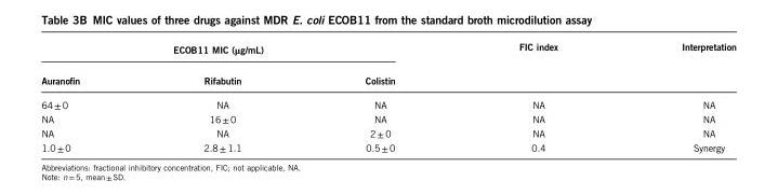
<table><thead><tr><td colspan="3">ECOB11 MIC (μg/mL)</td><td rowspan="2">FIC index</td><td rowspan="2">Interpretation</td></tr><tr><td>Auranofin</td><td>Rifabutin</td><td>Colistin</td></tr></thead><tbody><tr><td>64± 0</td><td>NA</td><td>NA</td><td>NA</td><td>NA</td></tr><tr><td>NA</td><td>16± 0</td><td>NA</td><td>NA</td><td>NA</td></tr><tr><td>NA</td><td>NA</td><td>2 ± 0</td><td>NA</td><td>NA</td></tr><tr><td>1.0 ± 0</td><td>2.8 ± 1.1</td><td>0.5 ± 0</td><td>0.4</td><td>Synergy</td></tr></tbody></table>